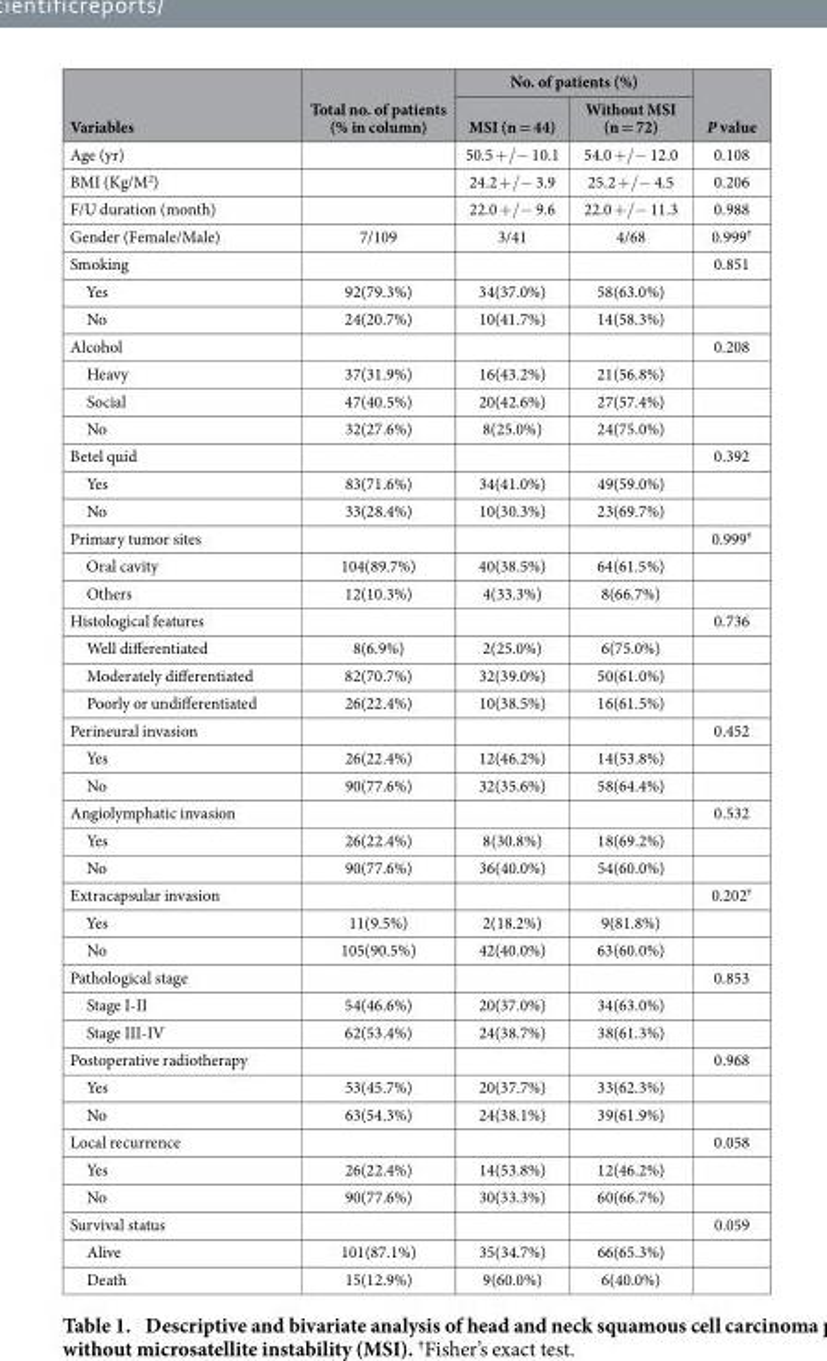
<table><thead><tr><td rowspan="2">Variables</td><td rowspan="2">Total no. of patients (% in column)</td><td colspan="2">No. of patients (%)</td><td rowspan="2">P value</td></tr><tr><td>MSI (n = 44)</td><td>Without MSI (n = 72)</td></tr></thead><tbody><tr><td>Age (yr)</td><td></td><td>50.5 +/- 10.1</td><td>54.0 +/- 12.0</td><td>0.108</td></tr><tr><td>BMI (Kg/M<sup>2</sup>)</td><td></td><td>24.2 +/- 3.9</td><td>25.2 +/- 4.5</td><td>0.206</td></tr><tr><td>F/U duration (month)</td><td></td><td>22.0 +/- 9.6</td><td>22.0 +/- 11.3</td><td>0.988</td></tr><tr><td>Gender (Female/Male)</td><td>7/109</td><td>3/41</td><td>4/68</td><td>0.999†</td></tr><tr><td>Smoking</td><td></td><td></td><td></td><td>0.851</td></tr><tr><td>Yes</td><td>92(79.3%)</td><td>34(37.0%)</td><td>58(63.0%)</td><td></td></tr><tr><td>No</td><td>24(20.7%)</td><td>10(41.7%)</td><td>14(58.3%)</td><td></td></tr><tr><td>Alcohol</td><td></td><td></td><td></td><td>0.208</td></tr><tr><td>Heavy</td><td>37(31.9%)</td><td>16(43.2%)</td><td>21(56.8%)</td><td></td></tr><tr><td>Social</td><td>47(40.5%)</td><td>20(42.6%)</td><td>27(57.4%)</td><td></td></tr><tr><td>No</td><td>32(27.6%)</td><td>8(25.0%)</td><td>24(75.0%)</td><td></td></tr><tr><td>Betel quid</td><td></td><td></td><td></td><td>0.392</td></tr><tr><td>Yes</td><td>83(71.6%)</td><td>34(41.0%)</td><td>49(59.0%)</td><td></td></tr><tr><td>No</td><td>33(28.4%)</td><td>10(30.3%)</td><td>23(69.7%)</td><td></td></tr><tr><td>Primary tumor sites</td><td></td><td></td><td></td><td>0.999†</td></tr><tr><td>Oral cavity</td><td>104(89.7%)</td><td>40(38.5%)</td><td>64(61.5%)</td><td></td></tr><tr><td>Others</td><td>12(10.3%)</td><td>4(33.3%)</td><td>8(66.7%)</td><td></td></tr><tr><td>Histological features</td><td></td><td></td><td></td><td>0.736</td></tr><tr><td>Well differentiated</td><td>8(6.9%)</td><td>2(25.0%)</td><td>6(75.0%)</td><td></td></tr><tr><td>Moderately differentiated</td><td>82(70.7%)</td><td>32(39.0%)</td><td>50(61.0%)</td><td></td></tr><tr><td>Poorly or undifferentiated</td><td>26(22.4%)</td><td>10(38.5%)</td><td>16(61.5%)</td><td></td></tr><tr><td>Perineural invasion</td><td></td><td></td><td></td><td>0.452</td></tr><tr><td>Yes</td><td>26(22.4%)</td><td>12(46.2%)</td><td>14(53.8%)</td><td></td></tr><tr><td>No</td><td>90(77.6%)</td><td>32(35.6%)</td><td>58(64.4%)</td><td></td></tr><tr><td>Angiolymphatic invasion</td><td></td><td></td><td></td><td>0.532</td></tr><tr><td>Yes</td><td>26(22.4%)</td><td>8(30.8%)</td><td>18(69.2%)</td><td></td></tr><tr><td>No</td><td>90(77.6%)</td><td>36(40.0%)</td><td>54(60.0%)</td><td></td></tr><tr><td>Extracapsular invasion</td><td></td><td></td><td></td><td>0.202†</td></tr><tr><td>Yes</td><td>11(9.5%)</td><td>2(18.2%)</td><td>9(81.8%)</td><td></td></tr><tr><td>No</td><td>105(90.5%)</td><td>42(40.0%)</td><td>63(60.0%)</td><td></td></tr><tr><td>Pathological stage</td><td></td><td></td><td></td><td>0.853</td></tr><tr><td>Stage I-II</td><td>54(46.6%)</td><td>20(37.0%)</td><td>34(63.0%)</td><td></td></tr><tr><td>Stage III-IV</td><td>62(53.4%)</td><td>24(38.7%)</td><td>38(61.3%)</td><td></td></tr><tr><td>Postoperative radiotherapy</td><td></td><td></td><td></td><td>0.968</td></tr><tr><td>Yes</td><td>53(45.7%)</td><td>20(37.7%)</td><td>33(62.3%)</td><td></td></tr><tr><td>No</td><td>63(54.3%)</td><td>24(38.1%)</td><td>39(61.9%)</td><td></td></tr><tr><td>Local recurrence</td><td></td><td></td><td></td><td>0.058</td></tr><tr><td>Yes</td><td>26(22.4%)</td><td>14(53.8%)</td><td>12(46.2%)</td><td></td></tr><tr><td>No</td><td>90(77.6%)</td><td>30(33.3%)</td><td>60(66.7%)</td><td></td></tr><tr><td>Survival status</td><td></td><td></td><td></td><td>0.059</td></tr><tr><td>Alive</td><td>101(87.1%)</td><td>35(34.7%)</td><td>66(65.3%)</td><td></td></tr><tr><td>Death</td><td>15(12.9%)</td><td>9(60.0%)</td><td>6(40.0%)</td><td></td></tr></tbody></table>